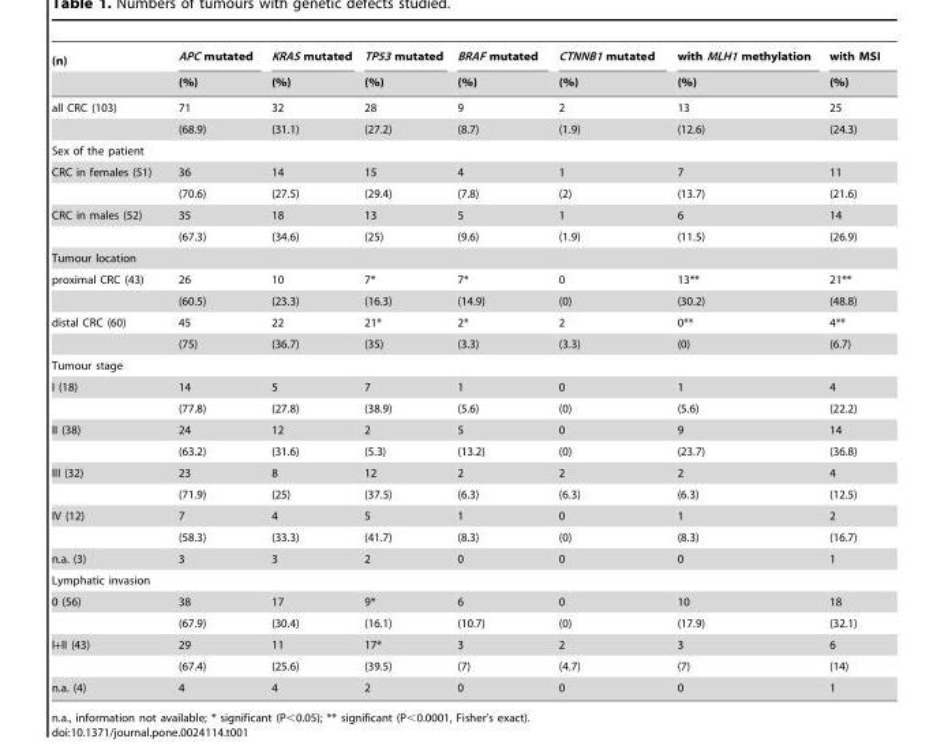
<table><thead><tr><td rowspan="2">(n)</td><td rowspan="2">APC mutated (%)</td><td rowspan="2">KRAS mutated (%)</td><td rowspan="2">TP53 mutated (%)</td><td rowspan="2">BRAF mutated (%)</td><td rowspan="2">CTNNB1 mutated (%)</td><td rowspan="2">with MLH1 methylation (%)</td><td rowspan="2">with MSI (%)</td></tr><tr></tr></thead><tbody><tr><td rowspan="2">all CRC (103)</td><td>71</td><td>32</td><td>28</td><td>9</td><td>2</td><td>13</td><td>25</td></tr><tr><td>(68.9)</td><td>(31.1)</td><td>(27.2)</td><td>(8.7)</td><td>(1.9)</td><td>(12.6)</td><td>(24.3)</td></tr><tr><td colspan="8">Sex of the patient</td></tr><tr><td rowspan="2">CRC in females (51)</td><td>36</td><td>14</td><td>15</td><td>4</td><td>1</td><td>7</td><td>11</td></tr><tr><td>(70.6)</td><td>(27.5)</td><td>(29.4)</td><td>(7.8)</td><td>(2)</td><td>(13.7)</td><td>(21.6)</td></tr><tr><td rowspan="2">CRC in males (52)</td><td>35</td><td>18</td><td>13</td><td>5</td><td>1</td><td>6</td><td>14</td></tr><tr><td>(67.3)</td><td>(34.6)</td><td>(25)</td><td>(9.6)</td><td>(1.9)</td><td>(11.5)</td><td>(26.9)</td></tr><tr><td colspan="8">Tumour location</td></tr><tr><td rowspan="2">proximal CRC (43)</td><td>26</td><td>10</td><td>7*</td><td>7*</td><td>0</td><td>13**</td><td>21**</td></tr><tr><td>(60.5)</td><td>(23.3)</td><td>(16.3)</td><td>(14.9)</td><td>(0)</td><td>(30.2)</td><td>(48.8)</td></tr><tr><td rowspan="2">distal CRC (60)</td><td>45</td><td>22</td><td>21*</td><td>2*</td><td>2</td><td>0**</td><td>4**</td></tr><tr><td>(75)</td><td>(36.7)</td><td>(35)</td><td>(3.3)</td><td>(3.3)</td><td>(0)</td><td>(6.7)</td></tr><tr><td colspan="8">Tumour stage</td></tr><tr><td rowspan="2">I (18)</td><td>14</td><td>5</td><td>7</td><td>1</td><td>0</td><td>1</td><td>4</td></tr><tr><td>(77.8)</td><td>(27.8)</td><td>(38.9)</td><td>(5.6)</td><td>(0)</td><td>(5.6)</td><td>(22.2)</td></tr><tr><td rowspan="2">II (38)</td><td>24</td><td>12</td><td>2</td><td>5</td><td>0</td><td>9</td><td>14</td></tr><tr><td>(63.2)</td><td>(31.6)</td><td>(5.3)</td><td>(13.2)</td><td>(0)</td><td>(23.7)</td><td>(36.8)</td></tr><tr><td rowspan="2">III (32)</td><td>23</td><td>8</td><td>12</td><td>2</td><td>2</td><td>2</td><td>4</td></tr><tr><td>(71.9)</td><td>(25)</td><td>(37.5)</td><td>(6.3)</td><td>(6.3)</td><td>(6.3)</td><td>(12.5)</td></tr><tr><td rowspan="2">IV (12)</td><td>7</td><td>4</td><td>5</td><td>1</td><td>0</td><td>1</td><td>2</td></tr><tr><td>(58.3)</td><td>(33.3)</td><td>(41.7)</td><td>(8.3)</td><td>(0)</td><td>(8.3)</td><td>(16.7)</td></tr><tr><td>n.a. (3)</td><td>3</td><td>3</td><td>2</td><td>0</td><td>0</td><td>0</td><td>1</td></tr><tr><td colspan="8">Lymphatic invasion</td></tr><tr><td rowspan="2">0 (56)</td><td>38</td><td>17</td><td>9*</td><td>6</td><td>0</td><td>10</td><td>18</td></tr><tr><td>(67.9)</td><td>(30.4)</td><td>(16.1)</td><td>(10.7)</td><td>(0)</td><td>(17.9)</td><td>(32.1)</td></tr><tr><td rowspan="2">I+II (43)</td><td>29</td><td>11</td><td>17*</td><td>3</td><td>2</td><td>3</td><td>6</td></tr><tr><td>(67.4)</td><td>(25.6)</td><td>(39.5)</td><td>(7)</td><td>(4.7)</td><td>(7)</td><td>(14)</td></tr><tr><td>n.a. (4)</td><td>4</td><td>4</td><td>2</td><td>0</td><td>0</td><td>0</td><td>1</td></tr></tbody></table>